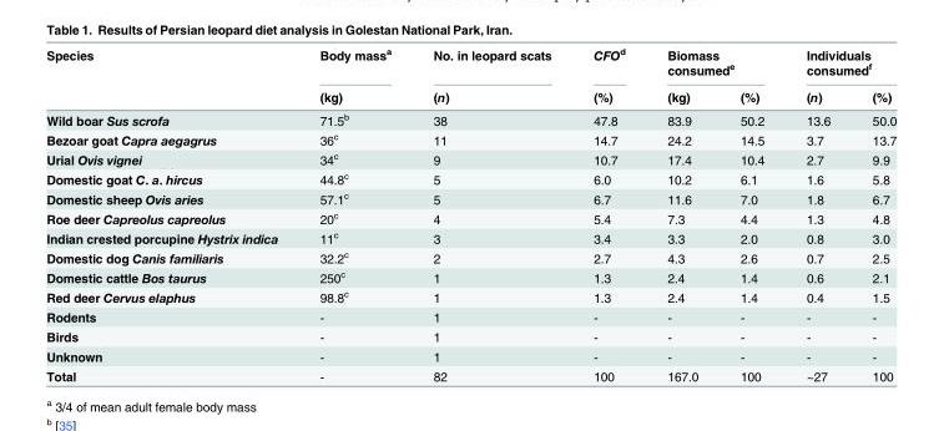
<table><thead><tr><td rowspan="2">Species</td><td rowspan="2">Body mass<sup>a</sup> (kg)</td><td rowspan="2">No. in leopard scats (n)</td><td rowspan="2">CFO<sup>d</sup> (%)</td><td colspan="2">Biomass consumed<sup>e</sup></td><td colspan="2">Individuals consumed<sup>f</sup></td></tr><tr><td>(kg)</td><td>(%)</td><td>(n)</td><td>(%)</td></tr></thead><tbody><tr><td>Wild boar Sus scrofa</td><td>71.5<sup>b</sup></td><td>38</td><td>47.8</td><td>83.9</td><td>50.2</td><td>13.6</td><td>50.0</td></tr><tr><td>Bezoar goat Capra aegagrus</td><td>36<sup>c</sup></td><td>11</td><td>14.7</td><td>24.2</td><td>14.5</td><td>3.7</td><td>13.7</td></tr><tr><td>Urial Ovis vignei</td><td>34<sup>c</sup></td><td>9</td><td>10.7</td><td>17.4</td><td>10.4</td><td>2.7</td><td>9.9</td></tr><tr><td>Domestic goat C. a. hircus</td><td>44.8<sup>c</sup></td><td>5</td><td>6.0</td><td>10.2</td><td>6.1</td><td>1.6</td><td>5.8</td></tr><tr><td>Domestic sheep Ovis aries</td><td>57.1<sup>c</sup></td><td>5</td><td>6.7</td><td>11.6</td><td>7.0</td><td>1.8</td><td>6.7</td></tr><tr><td>Roe deer Capreolus capreolus</td><td>20<sup>c</sup></td><td>4</td><td>5.4</td><td>7.3</td><td>4.4</td><td>1.3</td><td>4.8</td></tr><tr><td>Indian crested porcupine Hystrix indica</td><td>11<sup>c</sup></td><td>3</td><td>3.4</td><td>3.3</td><td>2.0</td><td>0.8</td><td>3.0</td></tr><tr><td>Domestic dog Canis familiaris</td><td>32.2<sup>c</sup></td><td>2</td><td>2.7</td><td>4.3</td><td>2.6</td><td>0.7</td><td>2.5</td></tr><tr><td>Domestic cattle Bos taurus</td><td>250<sup>c</sup></td><td>1</td><td>1.3</td><td>2.4</td><td>1.4</td><td>0.6</td><td>2.1</td></tr><tr><td>Red deer Cervus elaphus</td><td>98.8<sup>c</sup></td><td>1</td><td>1.3</td><td>2.4</td><td>1.4</td><td>0.4</td><td>1.5</td></tr><tr><td>Rodents</td><td>-</td><td>1</td><td>-</td><td>-</td><td>-</td><td>-</td><td>-</td></tr><tr><td>Birds</td><td>-</td><td>1</td><td>-</td><td>-</td><td>-</td><td>-</td><td>-</td></tr><tr><td>Unknown</td><td>-</td><td>1</td><td>-</td><td>-</td><td>-</td><td>-</td><td>-</td></tr><tr><td>Total</td><td>-</td><td>82</td><td>100</td><td>167.0</td><td>100</td><td>~27</td><td>100</td></tr></tbody></table>